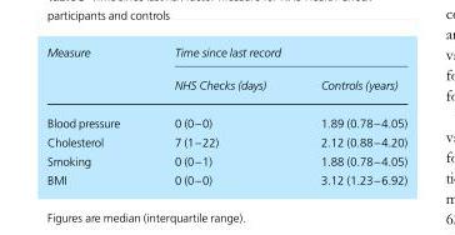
<table><thead><tr><td rowspan="2">Measure</td><td colspan="2">Time since last record</td></tr><tr><td>NHS Checks (days)</td><td>Controls (years)</td></tr></thead><tbody><tr><td>Blood pressure</td><td>0 (0–0)</td><td>1.89 (0.78–4.05)</td></tr><tr><td>Cholesterol</td><td>7 (1–22)</td><td>2.12 (0.88–4.20)</td></tr><tr><td>Smoking</td><td>0 (0–1)</td><td>1.88 (0.78–4.05)</td></tr><tr><td>BMI</td><td>0 (0–0)</td><td>3.12 (1.23–6.92)</td></tr></tbody></table>